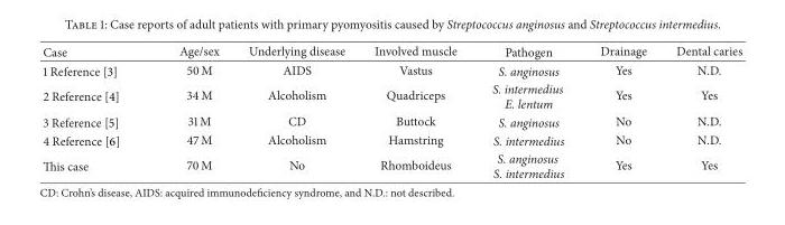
<table><thead><tr><td>Case</td><td>Age/sex</td><td>Underlying disease</td><td>Involved muscle</td><td>Pathogen</td><td>Drainage</td><td>Dental caries</td></tr></thead><tbody><tr><td>1 Reference [3]</td><td>50 M</td><td>AIDS</td><td>Vastus</td><td>S. anginosus</td><td>Yes</td><td>N.D.</td></tr><tr><td>2 Reference [4]</td><td>34 M</td><td>Alcoholism</td><td>Quadriceps</td><td>S. intermedius E. lentum</td><td>Yes</td><td>Yes</td></tr><tr><td>3 Reference [5]</td><td>31 M</td><td>CD</td><td>Buttock</td><td>S. anginosus</td><td>No</td><td>N.D.</td></tr><tr><td>4 Reference [6]</td><td>47 M</td><td>Alcoholism</td><td>Hamstring</td><td>S. intermedius</td><td>No</td><td>N.D.</td></tr><tr><td>This case</td><td>70 M</td><td>No</td><td>Rhomboideus</td><td>S. anginosus S. intermedius</td><td>Yes</td><td>Yes</td></tr></tbody></table>